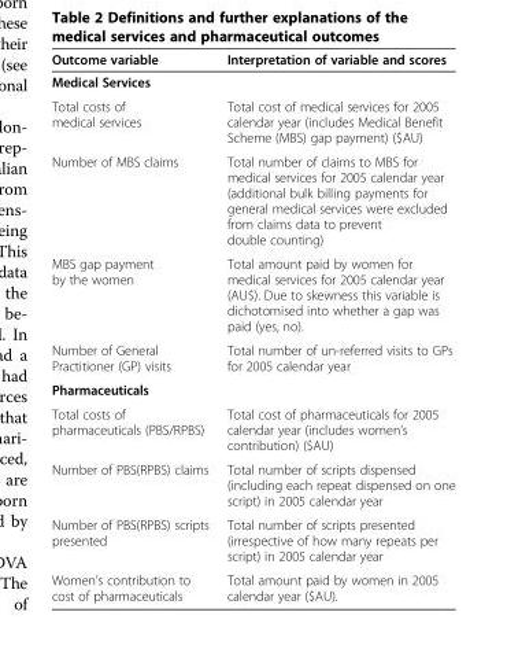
<table><thead><tr><td>Outcome variable</td><td>Interpretation of variable and scores</td></tr></thead><tbody><tr><td colspan="2">Medical Services</td></tr><tr><td>Total costs of medical services</td><td>Total cost of medical services for 2005 calendar year (includes Medical Benefit Scheme (MBS) gap payment) ($AU)</td></tr><tr><td>Number of MBS claims</td><td>Total number of claims to MBS for medical services for 2005 calendar year (additional bulk billing payments for general medical services were excluded from claims data to prevent double counting)</td></tr><tr><td>MBS gap payment by the women</td><td>Total amount paid by women for medical services for 2005 calendar year (AU$). Due to skewness this variable is dichotomised into whether a gap was paid (yes, no).</td></tr><tr><td>Number of General Practitioner (GP) visits</td><td>Total number of un-referred visits to GPs for 2005 calendar year</td></tr><tr><td colspan="2">Pharmaceuticals</td></tr><tr><td>Total costs of pharmaceuticals (PBS/RPBS)</td><td>Total cost of pharmaceuticals for 2005 calendar year (includes women’s contribution) ($AU)</td></tr><tr><td>Number of PBS(RPBS) claims</td><td>Total number of scripts dispensed (including each repeat dispensed on one script) in 2005 calendar year</td></tr><tr><td>Number of PBS(RPBS) scripts presented</td><td>Total number of scripts presented (irrespective of how many repeats per script) in 2005 calendar year</td></tr><tr><td>Women’s contribution to cost of pharmaceuticals</td><td>Total amount paid by women in 2005 calendar year ($AU).</td></tr></tbody></table>